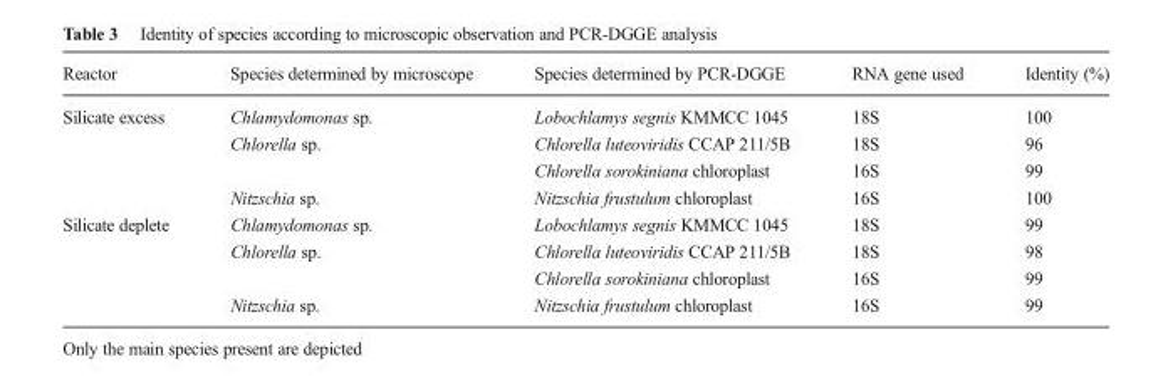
<table><thead><tr><td>Reactor</td><td>Species determined by microscope</td><td>Species determined by PCR-DGGE</td><td>RNA gene used</td><td>Identity (%)</td></tr></thead><tbody><tr><td rowspan="4">Silicate excess</td><td>Chlamydomonas sp.</td><td>Lobochlamys segnis KMMCC 1045</td><td>18S</td><td>100</td></tr><tr><td rowspan="2">Chlorella sp.</td><td>Chlorella luteoviridis CCAP 211/5B</td><td>18S</td><td>96</td></tr><tr><td>Chlorella sorokiniana chloroplast</td><td>16S</td><td>99</td></tr><tr><td>Nitzschia sp.</td><td>Nitzschia frustulum chloroplast</td><td>16S</td><td>100</td></tr><tr><td rowspan="4">Silicate deplete</td><td>Chlamydomonas sp.</td><td>Lobochlamys segnis KMMCC 1045</td><td>18S</td><td>99</td></tr><tr><td rowspan="2">Chlorella sp.</td><td>Chlorella luteoviridis CCAP 211/5B</td><td>18S</td><td>98</td></tr><tr><td>Chlorella sorokiniana chloroplast</td><td>16S</td><td>99</td></tr><tr><td>Nitzschia sp.</td><td>Nitzschia frustulum chloroplast</td><td>16S</td><td>99</td></tr></tbody></table>